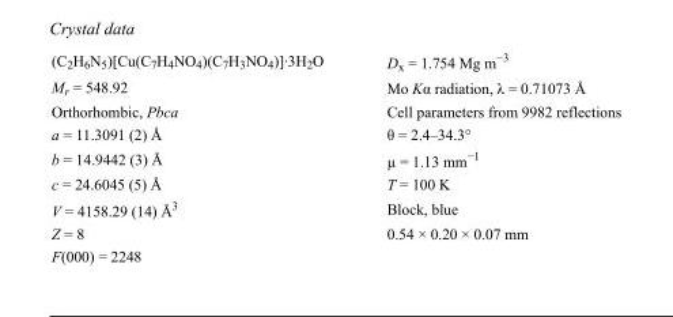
<table><tbody><tr><td>(C<sub>2</sub>H<sub>6</sub>N<sub>5</sub>)[Cu(C<sub>7</sub>H<sub>4</sub>NO<sub>4</sub>)(C<sub>7</sub>H<sub>3</sub>NO<sub>4</sub>)]·3H<sub>2</sub>O</td><td>D<sub>x</sub> = 1.754 Mg m<sup>−3</sup></td></tr><tr><td>M<sub>r</sub> = 548.92</td><td>Mo Kα radiation, λ = 0.71073 Å</td></tr><tr><td>Orthorhombic, Pbca</td><td>Cell parameters from 9982 reflections</td></tr><tr><td>a = 11.3091 (2) Å</td><td>θ = 2.4–34.3°</td></tr><tr><td>b = 14.9442 (3) Å</td><td>µ = 1.13 mm<sup>−1</sup></td></tr><tr><td>c = 24.6045 (5) Å</td><td>T = 100 K</td></tr><tr><td>V = 4158.29 (14) Å<sup>3</sup></td><td>Block, blue</td></tr><tr><td>Z = 8</td><td>0.54 × 0.20 × 0.07 mm</td></tr><tr><td>F(000) = 2248</td><td></td></tr></tbody></table>